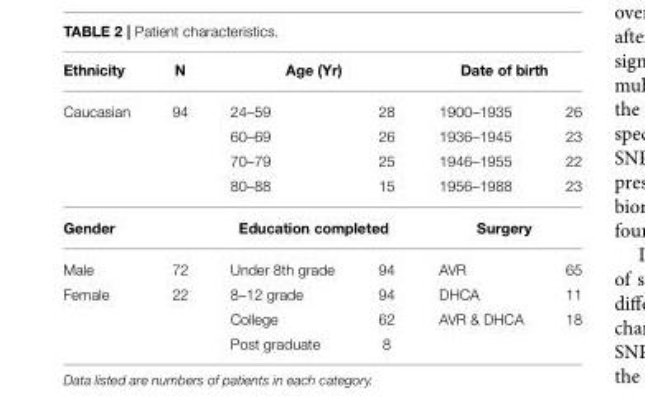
<table><thead><tr><td rowspan="2">Ethnicity Caucasian</td><td rowspan="2">N 94</td><td colspan="2">Age (Yr)</td><td colspan="2">Date of birth</td></tr><tr><td>24–59</td><td>28</td><td>1900–1935</td><td>26</td></tr></thead><tbody><tr><td></td><td></td><td>60–69</td><td>26</td><td>1936–1945</td><td>23</td></tr><tr><td></td><td></td><td>70–79</td><td>25</td><td>1946–1955</td><td>22</td></tr><tr><td></td><td></td><td>80–88</td><td>15</td><td>1956–1988</td><td>23</td></tr><tr><td>Gender</td><td></td><td colspan="2">Education completed</td><td colspan="2">Surgery</td></tr><tr><td>Male</td><td>72</td><td>Under 8th grade</td><td>94</td><td>AVR</td><td>65</td></tr><tr><td rowspan="3">Female</td><td>22</td><td>8–12 grade</td><td>94</td><td>DHCA</td><td>11</td></tr><tr><td></td><td>College</td><td>62</td><td>AVR &amp; DHCA</td><td>18</td></tr><tr><td></td><td>Post graduate</td><td>8</td><td></td><td></td></tr></tbody></table>